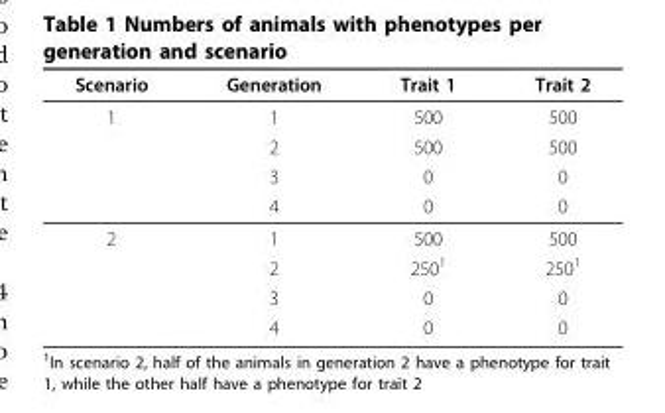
<table><thead><tr><td>Scenario</td><td>Generation</td><td>Trait 1</td><td>Trait 2</td></tr></thead><tbody><tr><td rowspan="4">1</td><td>1</td><td>500</td><td>500</td></tr><tr><td>2</td><td>500</td><td>500</td></tr><tr><td>3</td><td>0</td><td>0</td></tr><tr><td>4</td><td>0</td><td>0</td></tr><tr><td rowspan="4">2</td><td>1</td><td>500</td><td>500</td></tr><tr><td>2</td><td>250<sup>1</sup></td><td>250<sup>1</sup></td></tr><tr><td>3</td><td>0</td><td>0</td></tr><tr><td>4</td><td>0</td><td>0</td></tr></tbody></table>